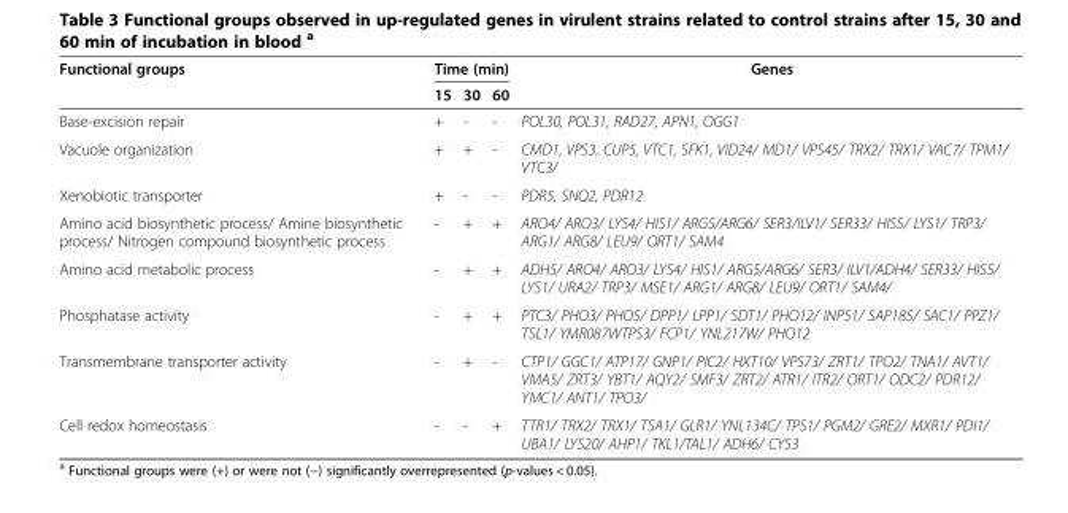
<table><thead><tr><td rowspan="2">Functional groups</td><td colspan="3">Time (min)</td><td rowspan="2">Genes</td></tr><tr><td>15</td><td>30</td><td>60</td></tr></thead><tbody><tr><td>Base-excision repair</td><td>+</td><td>-</td><td>-</td><td>POL30, POL31, RAD27, APN1, OGG1</td></tr><tr><td>Vacuole organization</td><td>+</td><td>+</td><td>-</td><td>CMD1, VPS3, CUP5, VTC1, SFK1, VID24/ MD1/ VPS45/ TRX2/ TRX1/ VAC7/ TPM1/ VTC3/</td></tr><tr><td>Xenobiotic transporter</td><td>+</td><td>-</td><td>-</td><td>PDR5, SNQ2, PDR12</td></tr><tr><td>Amino acid biosynthetic process/ Amine biosynthetic process/ Nitrogen compound biosynthetic process</td><td>-</td><td>+</td><td>+</td><td>ARO4/ ARO3/ LYS4/ HIS1/ ARG5/ARG6/ SER3/ILV1/ SER33/ HIS5/ LYS1/ TRP3/ ARG1/ ARG8/ LEU9/ ORT1/ SAM4</td></tr><tr><td>Amino acid metabolic process</td><td>-</td><td>+</td><td>+</td><td>ADH5/ ARO4/ ARO3/ LYS4/ HIS1/ ARG5/ARG6/ SER3/ ILV1/ADH4/ SER33/ HIS5/ LYS1/ URA2/ TRP3/ MSE1/ ARG1/ ARG8/ LEU9/ ORT1/ SAM4/</td></tr><tr><td>Phosphatase activity</td><td>-</td><td>+</td><td>+</td><td>PTC3/ PHO3/ PHO5/ DPP1/ LPP1/ SDT1/ PHO12/ INP51/ SAP185/ SAC1/ PPZ1/ TSL1/ YMR087WTPS3/ FCP1/ YNL217W/ PHO12</td></tr><tr><td>Transmembrane transporter activity</td><td>-</td><td>+</td><td>-</td><td>CTP1/ GGC1/ ATP17/ GNP1/ PIC2/ HXT10/ VPS73/ ZRT1/ TPO2/ TNA1/ AVT1/ VMA5/ ZRT3/ YBT1/ AQY2/ SMF3/ ZRT2/ ATR1/ ITR2/ ORT1/ ODC2/ PDR12/ YMC1/ ANT1/ TPO3/</td></tr><tr><td>Cell redox homeostasis</td><td>-</td><td>-</td><td>+</td><td>TTR1/ TRX2/ TRX1/ TSA1/ GLR1/ YNL134C/ TPS1/ PGM2/ GRE2/ MXR1/ PDI1/ UBA1/ LYS20/ AHP1/ TKL1/TAL1/ ADH6/ CYS3</td></tr></tbody></table>